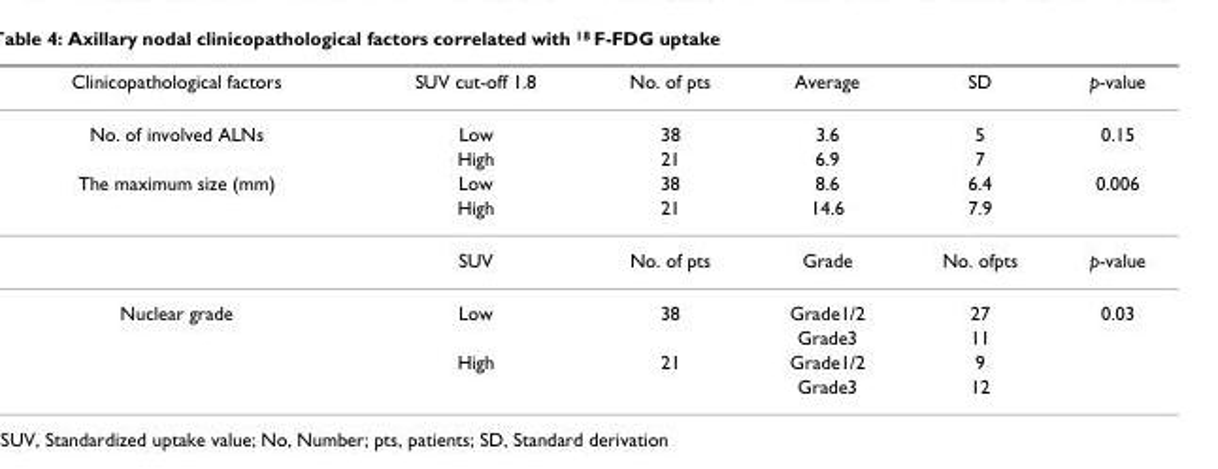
<table><thead><tr><td>Clinicopathological factors</td><td>SUV cut-off 1.8</td><td>No. of pts</td><td>Average</td><td>SD</td><td>p-value</td></tr></thead><tbody><tr><td rowspan="2">No. of involved ALNs</td><td>Low</td><td>38</td><td>3.6</td><td>5</td><td>0.15</td></tr><tr><td>High</td><td>21</td><td>6.9</td><td>7</td><td></td></tr><tr><td rowspan="3">The maximum size (mm)</td><td>Low</td><td>38</td><td>8.6</td><td>6.4</td><td>0.006</td></tr><tr><td>High</td><td>21</td><td>14.6</td><td>7.9</td><td></td></tr><tr><td>SUV</td><td>No. of pts</td><td>Grade</td><td>No. ofpts</td><td>p-value</td></tr><tr><td rowspan="4">Nuclear grade</td><td>Low</td><td>38</td><td>Grade1/2</td><td>27</td><td>0.03</td></tr><tr><td></td><td></td><td>Grade3</td><td>11</td><td></td></tr><tr><td>High</td><td>21</td><td>Grade1/2</td><td>9</td><td></td></tr><tr><td></td><td></td><td>Grade3</td><td>12</td><td></td></tr></tbody></table>